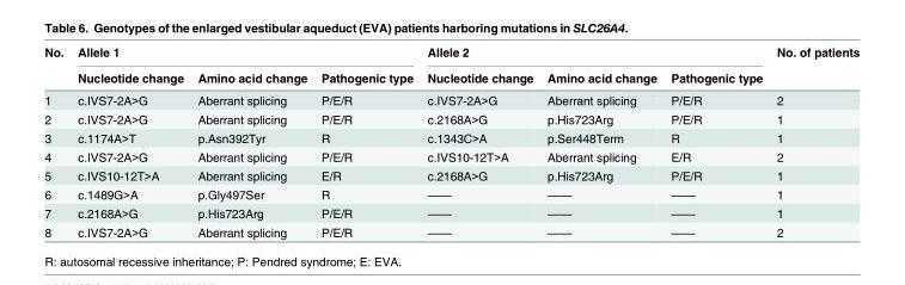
<table><thead><tr><td rowspan="2">No.</td><td colspan="3">Allele 1</td><td colspan="3">Allele 2</td><td rowspan="2">No. of patients</td></tr><tr><td>Nucleotide change</td><td>Amino acid change</td><td>Pathogenic type</td><td>Nucleotide change</td><td>Amino acid change</td><td>Pathogenic type</td></tr></thead><tbody><tr><td>1</td><td>c.IVS7-2A&gt;G</td><td>Aberrant splicing</td><td>P/E/R</td><td>c.IVS7-2A&gt;G</td><td>Aberrant splicing</td><td>P/E/R</td><td>2</td></tr><tr><td>2</td><td>c.IVS7-2A&gt;G</td><td>Aberrant splicing</td><td>P/E/R</td><td>c.2168A&gt;G</td><td>p.His723Arg</td><td>P/E/R</td><td>1</td></tr><tr><td>3</td><td>c.1174A&gt;T</td><td>p.Asn392Tyr</td><td>R</td><td>c.1343C&gt;A</td><td>p.Ser448Term</td><td>R</td><td>1</td></tr><tr><td>4</td><td>c.IVS7-2A&gt;G</td><td>Aberrant splicing</td><td>P/E/R</td><td>c.IVS10-12T&gt;A</td><td>Aberrant splicing</td><td>E/R</td><td>2</td></tr><tr><td>5</td><td>c.IVS10-12T&gt;A</td><td>Aberrant splicing</td><td>E/R</td><td>c.2168A&gt;G</td><td>p.His723Arg</td><td>P/E/R</td><td>1</td></tr><tr><td>6</td><td>c.1489G&gt;A</td><td>p.Gly497Ser</td><td>R</td><td>——</td><td>——</td><td>——</td><td>1</td></tr><tr><td>7</td><td>c.2168A&gt;G</td><td>p.His723Arg</td><td>P/E/R</td><td>——</td><td>——</td><td>——</td><td>1</td></tr><tr><td>8</td><td>c.IVS7-2A&gt;G</td><td>Aberrant splicing</td><td>P/E/R</td><td>——</td><td>——</td><td>——</td><td>2</td></tr></tbody></table>